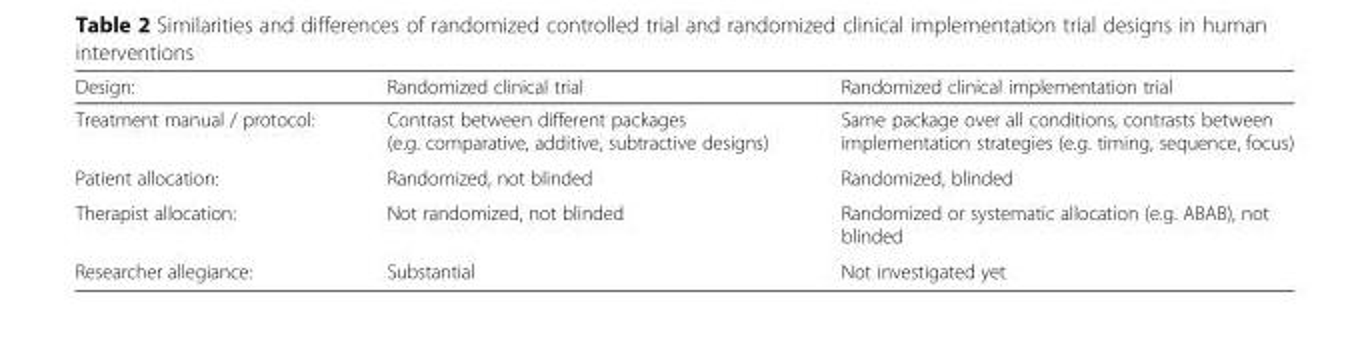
<table><thead><tr><td>Design:</td><td>Randomized clinical trial</td><td>Randomized clinical implementation trial</td></tr></thead><tbody><tr><td>Treatment manual / protocol:</td><td>Contrast between different packages (e.g. comparative, additive, subtractive designs)</td><td>Same package over all conditions, contrasts between implementation strategies (e.g. timing, sequence, focus)</td></tr><tr><td>Patient allocation:</td><td>Randomized, not blinded</td><td>Randomized, blinded</td></tr><tr><td>Therapist allocation:</td><td>Not randomized, not blinded</td><td>Randomized or systematic allocation (e.g. ABAB), not blinded</td></tr><tr><td>Researcher allegiance:</td><td>Substantial</td><td>Not investigated yet</td></tr></tbody></table>